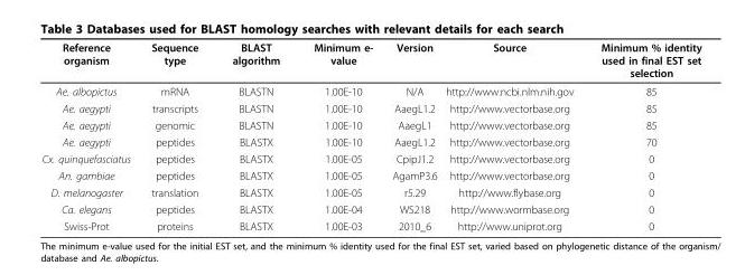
<table><thead><tr><td>Reference organism</td><td>Sequence type</td><td>BLAST algorithm</td><td>Minimum e- value</td><td>Version</td><td>Source</td><td>Minimum % identity used in final EST set selection</td></tr></thead><tbody><tr><td>Ae. albopictus</td><td>mRNA</td><td>BLASTN</td><td>1.00E-10</td><td>N/A</td><td>http://www.ncbi.nlm.nih.gov</td><td>85</td></tr><tr><td>Ae. aegypti</td><td>transcripts</td><td>BLASTN</td><td>1.00E-10</td><td>AaegL1.2</td><td>http://www.vectorbase.org</td><td>85</td></tr><tr><td>Ae. aegypti</td><td>genomic</td><td>BLASTN</td><td>1.00E-10</td><td>AaegL1</td><td>http://www.vectorbase.org</td><td>85</td></tr><tr><td>Ae. aegypti</td><td>peptides</td><td>BLASTX</td><td>1.00E-10</td><td>AaegL1.2</td><td>http://www.vectorbase.org</td><td>70</td></tr><tr><td>Cx. quinquefasciatus</td><td>peptides</td><td>BLASTX</td><td>1.00E-05</td><td>CpipJ1.2</td><td>http://www.vectorbase.org</td><td>0</td></tr><tr><td>An. gambiae</td><td>peptides</td><td>BLASTX</td><td>1.00E-05</td><td>AgamP3.6</td><td>http://www.vectorbase.org</td><td>0</td></tr><tr><td>D. melanogaster</td><td>translation</td><td>BLASTX</td><td>1.00E-05</td><td>r5.29</td><td>http://www.flybase.org</td><td>0</td></tr><tr><td>Ca. elegans</td><td>peptides</td><td>BLASTX</td><td>1.00E-04</td><td>WS218</td><td>http://www.wormbase.org</td><td>0</td></tr><tr><td>Swiss-Prot</td><td>proteins</td><td>BLASTX</td><td>1.00E-03</td><td>2010_6</td><td>http://www.uniprot.org</td><td>0</td></tr></tbody></table>